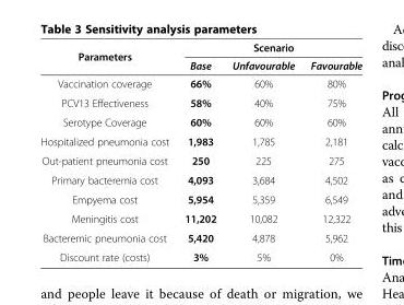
<table><thead><tr><td rowspan="2">Parameters</td><td colspan="3">Scenario</td></tr><tr><td>Base</td><td>Unfavourable</td><td>Favourable</td></tr></thead><tbody><tr><td>Vaccination coverage</td><td>66%</td><td>60%</td><td>80%</td></tr><tr><td>PCV13 Effectiveness</td><td>58%</td><td>40%</td><td>75%</td></tr><tr><td>Serotype Coverage</td><td>60%</td><td>60%</td><td>60%</td></tr><tr><td>Hospitalized pneumonia cost</td><td>1,983</td><td>1,785</td><td>2,181</td></tr><tr><td>Out-patient pneumonia cost</td><td>250</td><td>225</td><td>275</td></tr><tr><td>Primary bacteremia cost</td><td>4,093</td><td>3,684</td><td>4,502</td></tr><tr><td>Empyema cost</td><td>5,954</td><td>5,359</td><td>6,549</td></tr><tr><td>Meningitis cost</td><td>11,202</td><td>10,082</td><td>12,322</td></tr><tr><td>Bacteremic pneumonia cost</td><td>5,420</td><td>4,878</td><td>5,962</td></tr><tr><td>Discount rate (costs)</td><td>3%</td><td>5%</td><td>0%</td></tr></tbody></table>